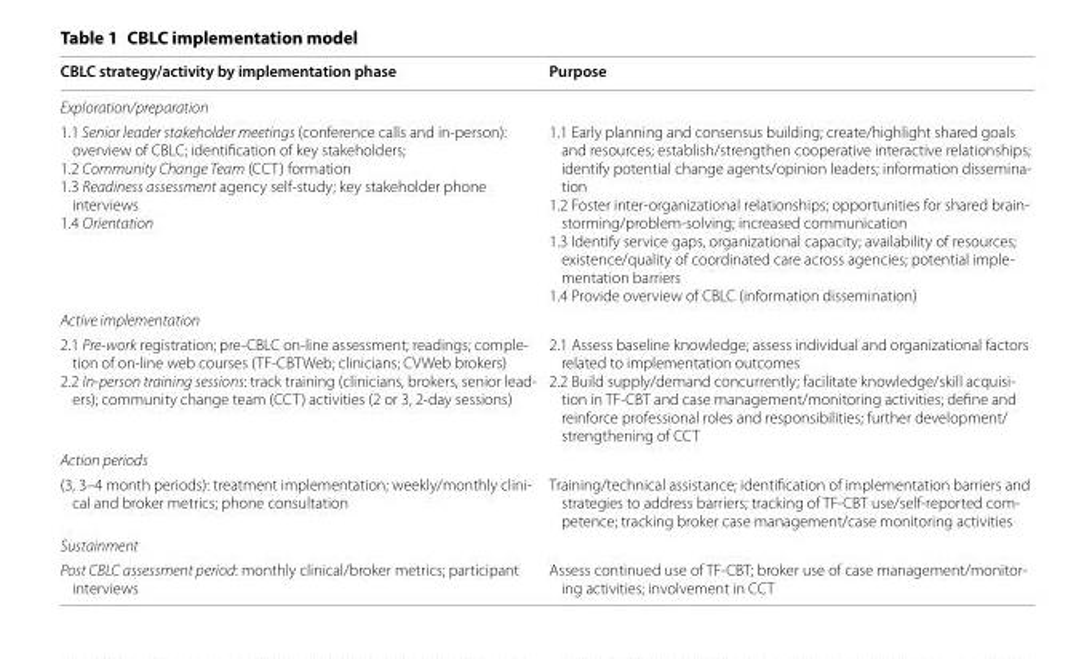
<table><thead><tr><td>CBLC strategy/activity by implementation phase</td><td>Purpose</td></tr></thead><tbody><tr><td colspan="2">Exploration/preparation</td></tr><tr><td>1.1 Senior leader stakeholder meetings (conference calls and in-person): overview of CBLC; identification of key stakeholders; 1.2 Community Change Team (CCT) formation 1.3 Readiness assessment agency self-study; key stakeholder phone interviews 1.4 Orientation</td><td>1.1 Early planning and consensus building; create/highlight shared goals and resources; establish/strengthen cooperative interactive relationships; identify potential change agents/opinion leaders; information dissemina- tion 1.2 Foster inter-organizational relationships; opportunities for shared brain- storming/problem-solving; increased communication 1.3 Identify service gaps, organizational capacity; availability of resources; existence/quality of coordinated care across agencies; potential imple- mentation barriers 1.4 Provide overview of CBLC (information dissemination)</td></tr><tr><td colspan="2">Active implementation</td></tr><tr><td>2.1 Pre-work registration; pre-CBLC on-line assessment; readings; comple- tion of on-line web courses (TF-CBTWeb; clinicians; CVWeb brokers) 2.2 In-person training sessions: track training (clinicians, brokers, senior lead- ers); community change team (CCT) activities (2 or 3, 2-day sessions)</td><td>2.1 Assess baseline knowledge; assess individual and organizational factors related to implementation outcomes 2.2 Build supply/demand concurrently; facilitate knowledge/skill acquisi- tion in TF-CBT and case management/monitoring activities; define and reinforce professional roles and responsibilities; further development/ strengthening of CCT</td></tr><tr><td colspan="2">Action periods</td></tr><tr><td>(3, 3–4 month periods): treatment implementation; weekly/monthly clini- cal and broker metrics; phone consultation</td><td>Training/technical assistance; identification of implementation barriers and strategies to address barriers; tracking of TF-CBT use/self-reported com- petence; tracking broker case management/case monitoring activities</td></tr><tr><td colspan="2">Sustainment</td></tr><tr><td>Post CBLC assessment period: monthly clinical/broker metrics; participant interviews</td><td>Assess continued use of TF-CBT; broker use of case management/monitor- ing activities; involvement in CCT</td></tr></tbody></table>